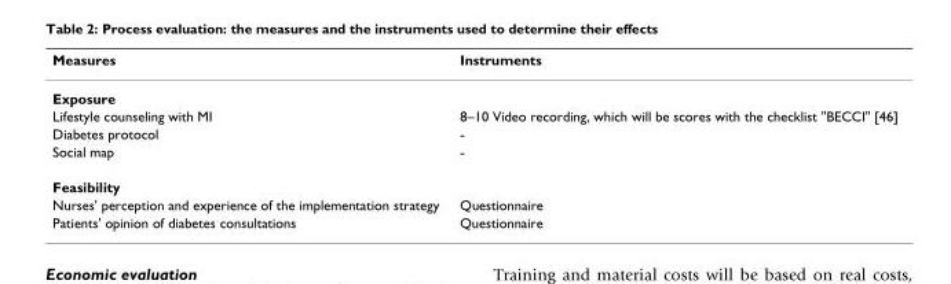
<table><thead><tr><td>Measures</td><td>Instruments</td></tr></thead><tbody><tr><td colspan="2">Exposure</td></tr><tr><td>Lifestyle counseling with MI</td><td>8–10 Video recording, which will be scores with the checklist &quot;BECCI&quot; [46]</td></tr><tr><td>Diabetes protocol</td><td>-</td></tr><tr><td>Social map</td><td>-</td></tr><tr><td colspan="2">Feasibility</td></tr><tr><td>Nurses&#x27; perception and experience of the implementation strategy</td><td>Questionnaire</td></tr><tr><td>Patients&#x27; opinion of diabetes consultations</td><td>Questionnaire</td></tr></tbody></table>